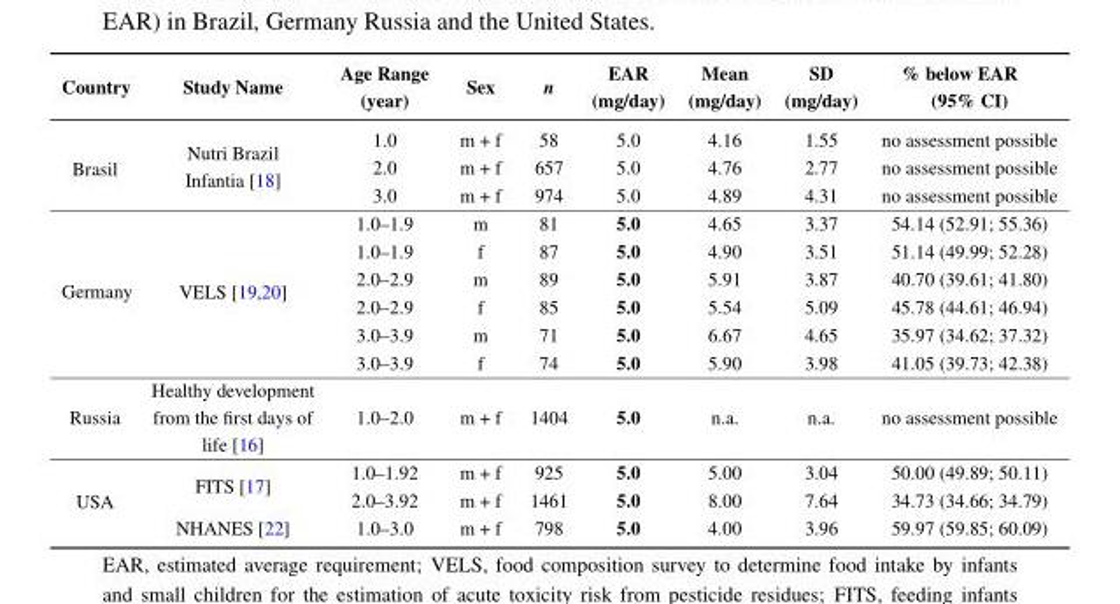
<table><thead><tr><td>Country</td><td>Study Name</td><td>Age Range (year)</td><td>Sex</td><td>n</td><td>EAR (mg/day)</td><td>Mean (mg/day)</td><td>SD (mg/day)</td><td>% below EAR (95% CI)</td></tr></thead><tbody><tr><td rowspan="3">Brasil</td><td rowspan="3">Nutri Brazil Infantia [18]</td><td>1.0</td><td>m + f</td><td>58</td><td>5.0</td><td>4.16</td><td>1.55</td><td>no assessment possible</td></tr><tr><td>2.0</td><td>m + f</td><td>657</td><td>5.0</td><td>4.76</td><td>2.77</td><td>no assessment possible</td></tr><tr><td>3.0</td><td>m + f</td><td>974</td><td>5.0</td><td>4.89</td><td>4.31</td><td>no assessment possible</td></tr><tr><td rowspan="6">Germany</td><td rowspan="6">VELS [19,20]</td><td>1.0–1.9</td><td>m</td><td>81</td><td>5.0</td><td>4.65</td><td>3.37</td><td>54.14 (52.91; 55.36)</td></tr><tr><td>1.0–1.9</td><td>f</td><td>87</td><td>5.0</td><td>4.90</td><td>3.51</td><td>51.14 (49.99; 52.28)</td></tr><tr><td>2.0–2.9</td><td>m</td><td>89</td><td>5.0</td><td>5.91</td><td>3.87</td><td>40.70 (39.61; 41.80)</td></tr><tr><td>2.0–2.9</td><td>f</td><td>85</td><td>5.0</td><td>5.54</td><td>5.09</td><td>45.78 (44.61; 46.94)</td></tr><tr><td>3.0–3.9</td><td>m</td><td>71</td><td>5.0</td><td>6.67</td><td>4.65</td><td>35.97 (34.62; 37.32)</td></tr><tr><td>3.0–3.9</td><td>f</td><td>74</td><td>5.0</td><td>5.90</td><td>3.98</td><td>41.05 (39.73; 42.38)</td></tr><tr><td>Russia</td><td>Healthy development from the first days of life [16]</td><td>1.0–2.0</td><td>m + f</td><td>1404</td><td>5.0</td><td>n.a.</td><td>n.a.</td><td>no assessment possible</td></tr><tr><td rowspan="3">USA</td><td rowspan="2">FITS [17]</td><td>1.0–1.92</td><td>m + f</td><td>925</td><td>5.0</td><td>5.00</td><td>3.04</td><td>50.00 (49.89; 50.11)</td></tr><tr><td>2.0–3.92</td><td>m + f</td><td>1461</td><td>5.0</td><td>8.00</td><td>7.64</td><td>34.73 (34.66; 34.79)</td></tr><tr><td>NHANES [22]</td><td>1.0–3.0</td><td>m + f</td><td>798</td><td>5.0</td><td>4.00</td><td>3.96</td><td>59.97 (59.85; 60.09)</td></tr></tbody></table>